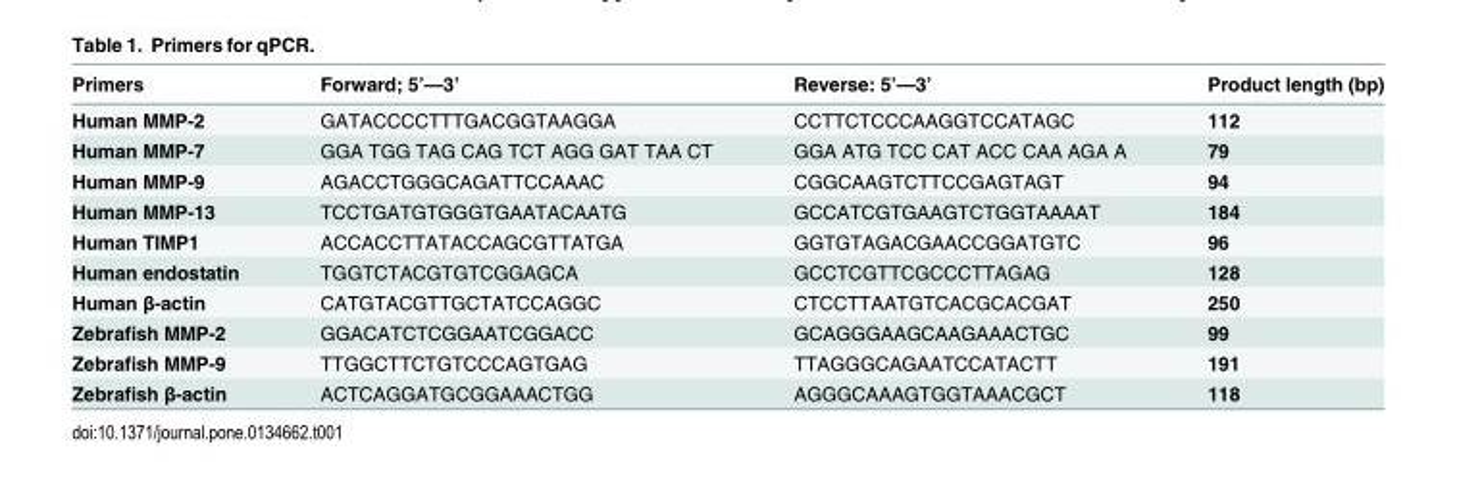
<table><thead><tr><td>Primers</td><td>Forward; 5’—3’</td><td>Reverse: 5’—3’</td><td>Product length (bp)</td></tr></thead><tbody><tr><td>Human MMP-2</td><td>GATACCCCTTTGACGGTAAGGA</td><td>CCTTCTCCCAAGGTCCATAGC</td><td>112</td></tr><tr><td>Human MMP-7</td><td>GGA TGG TAG CAG TCT AGG GAT TAA CT</td><td>GGA ATG TCC CAT ACC CAA AGA A</td><td>79</td></tr><tr><td>Human MMP-9</td><td>AGACCTGGGCAGATTCCAAAC</td><td>CGGCAAGTCTTCCGAGTAGT</td><td>94</td></tr><tr><td>Human MMP-13</td><td>TCCTGATGTGGGTGAATACAATG</td><td>GCCATCGTGAAGTCTGGTAAAAT</td><td>184</td></tr><tr><td>Human TIMP1</td><td>ACCACCTTATACCAGCGTTATGA</td><td>GGTGTAGACGAACCGGATGTC</td><td>96</td></tr><tr><td>Human endostatin</td><td>TGGTCTACGTGTCGGAGCA</td><td>GCCTCGTTCGCCCTTAGAG</td><td>128</td></tr><tr><td>Human β-actin</td><td>CATGTACGTTGCTATCCAGGC</td><td>CTCCTTAATGTCACGCACGAT</td><td>250</td></tr><tr><td>Zebrafish MMP-2</td><td>GGACATCTCGGAATCGGACC</td><td>GCAGGGAAGCAAGAAACTGC</td><td>99</td></tr><tr><td>Zebrafish MMP-9</td><td>TTGGCTTCTGTCCCAGTGAG</td><td>TTAGGGCAGAATCCATACTT</td><td>191</td></tr><tr><td>Zebrafish β-actin</td><td>ACTCAGGATGCGGAAACTGG</td><td>AGGGCAAAGTGGTAAACGCT</td><td>118</td></tr></tbody></table>